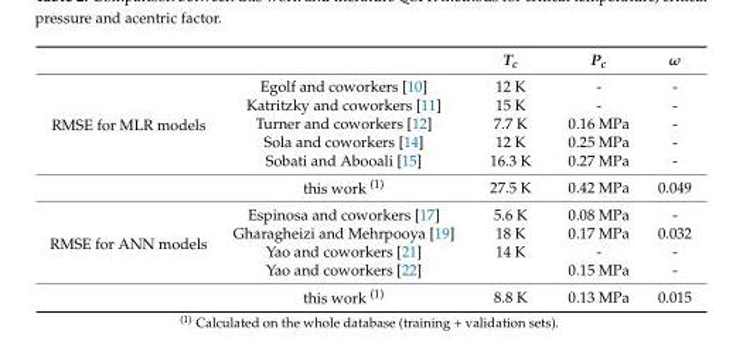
<table><thead><tr><td></td><td></td><td>T<sub>c</sub></td><td>P<sub>c</sub></td><td>ω</td></tr></thead><tbody><tr><td rowspan="6">RMSE for MLR models</td><td>Egolf and coworkers [10]</td><td>12 K</td><td>-</td><td>-</td></tr><tr><td>Katritzky and coworkers [11]</td><td>15 K</td><td>-</td><td>-</td></tr><tr><td>Turner and coworkers [12]</td><td>7.7 K</td><td>0.16 MPa</td><td>-</td></tr><tr><td>Sola and coworkers [14]</td><td>12 K</td><td>0.25 MPa</td><td>-</td></tr><tr><td>Sobati and Abooali [15]</td><td>16.3 K</td><td>0.27 MPa</td><td>-</td></tr><tr><td>this work <sup>(1)</sup></td><td>27.5 K</td><td>0.42 MPa</td><td>0.049</td></tr><tr><td rowspan="5">RMSE for ANN models</td><td>Espinosa and coworkers [17]</td><td>5.6 K</td><td>0.08 MPa</td><td>-</td></tr><tr><td>Gharagheizi and Mehrpooya [19]</td><td>18 K</td><td>0.17 MPa</td><td>0.032</td></tr><tr><td>Yao and coworkers [21]</td><td>14 K</td><td>-</td><td>-</td></tr><tr><td>Yao and coworkers [22]</td><td></td><td>0.15 MPa</td><td>-</td></tr><tr><td>this work <sup>(1)</sup></td><td>8.8 K</td><td>0.13 MPa</td><td>0.015</td></tr></tbody></table>